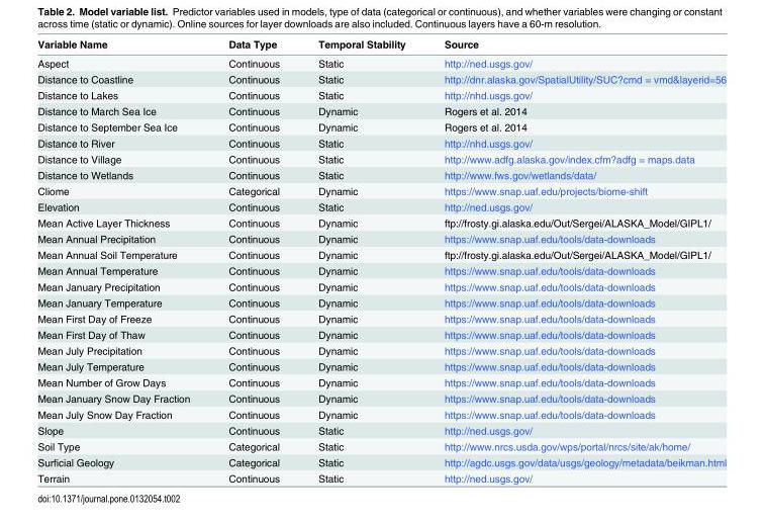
<table><thead><tr><td>Variable Name</td><td>Data Type</td><td>Temporal Stability</td><td>Source</td></tr></thead><tbody><tr><td>Aspect</td><td>Continuous</td><td>Static</td><td>http://ned.usgs.gov/</td></tr><tr><td>Distance to Coastline</td><td>Continuous</td><td>Static</td><td>http://dnr.alaska.gov/SpatialUtility/SUC?cmd = vmd&amp;layerid=56</td></tr><tr><td>Distance to Lakes</td><td>Continuous</td><td>Static</td><td>http://nhd.usgs.gov/</td></tr><tr><td>Distance to March Sea Ice</td><td>Continuous</td><td>Dynamic</td><td>Rogers et al. 2014</td></tr><tr><td>Distance to September Sea Ice</td><td>Continuous</td><td>Dynamic</td><td>Rogers et al. 2014</td></tr><tr><td>Distance to River</td><td>Continuous</td><td>Static</td><td>http://nhd.usgs.gov/</td></tr><tr><td>Distance to Village</td><td>Continuous</td><td>Static</td><td>http://www.adfg.alaska.gov/index.cfm?adfg = maps.data</td></tr><tr><td>Distance to Wetlands</td><td>Continuous</td><td>Static</td><td>http://www.fws.gov/wetlands/data/</td></tr><tr><td>Cliome</td><td>Categorical</td><td>Dynamic</td><td>https://www.snap.uaf.edu/projects/biome-shift</td></tr><tr><td>Elevation</td><td>Continuous</td><td>Static</td><td>http://ned.usgs.gov/</td></tr><tr><td>Mean Active Layer Thickness</td><td>Continuous</td><td>Dynamic</td><td>ftp://frosty.gi.alaska.edu/Out/Sergei/ALASKA_Model/GIPL1/</td></tr><tr><td>Mean Annual Precipitation</td><td>Continuous</td><td>Dynamic</td><td>https://www.snap.uaf.edu/tools/data-downloads</td></tr><tr><td>Mean Annual Soil Temperature</td><td>Continuous</td><td>Dynamic</td><td>ftp://frosty.gi.alaska.edu/Out/Sergei/ALASKA_Model/GIPL1/</td></tr><tr><td>Mean Annual Temperature</td><td>Continuous</td><td>Dynamic</td><td>https://www.snap.uaf.edu/tools/data-downloads</td></tr><tr><td>Mean January Precipitation</td><td>Continuous</td><td>Dynamic</td><td>https://www.snap.uaf.edu/tools/data-downloads</td></tr><tr><td>Mean January Temperature</td><td>Continuous</td><td>Dynamic</td><td>https://www.snap.uaf.edu/tools/data-downloads</td></tr><tr><td>Mean First Day of Freeze</td><td>Continuous</td><td>Dynamic</td><td>https://www.snap.uaf.edu/tools/data-downloads</td></tr><tr><td>Mean First Day of Thaw</td><td>Continuous</td><td>Dynamic</td><td>https://www.snap.uaf.edu/tools/data-downloads</td></tr><tr><td>Mean July Precipitation</td><td>Continuous</td><td>Dynamic</td><td>https://www.snap.uaf.edu/tools/data-downloads</td></tr><tr><td>Mean July Temperature</td><td>Continuous</td><td>Dynamic</td><td>https://www.snap.uaf.edu/tools/data-downloads</td></tr><tr><td>Mean Number of Grow Days</td><td>Continuous</td><td>Dynamic</td><td>https://www.snap.uaf.edu/tools/data-downloads</td></tr><tr><td>Mean January Snow Day Fraction</td><td>Continuous</td><td>Dynamic</td><td>https://www.snap.uaf.edu/tools/data-downloads</td></tr><tr><td>Mean July Snow Day Fraction</td><td>Continuous</td><td>Dynamic</td><td>https://www.snap.uaf.edu/tools/data-downloads</td></tr><tr><td>Slope</td><td>Continuous</td><td>Static</td><td>http://ned.usgs.gov/</td></tr><tr><td>Soil Type</td><td>Categorical</td><td>Static</td><td>http://www.nrcs.usda.gov/wps/portal/nrcs/site/ak/home/</td></tr><tr><td>Surficial Geology</td><td>Categorical</td><td>Static</td><td>http://agdc.usgs.gov/data/usgs/geology/metadata/beikman.html</td></tr><tr><td>Terrain</td><td>Continuous</td><td>Static</td><td>http://ned.usgs.gov/</td></tr></tbody></table>